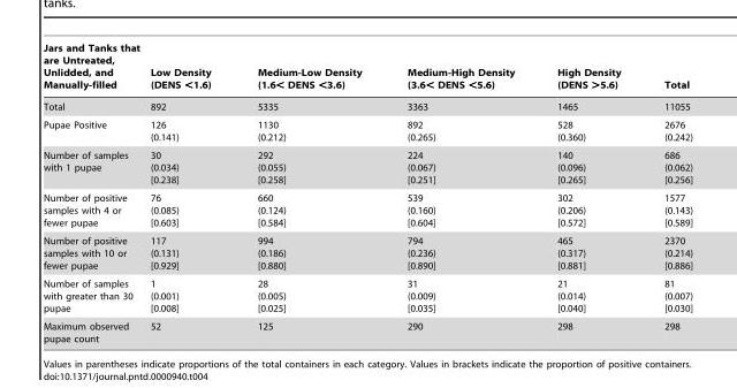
<table><thead><tr><td>Jars and Tanks that are Untreated, Unlidded, and Manually-filled</td><td>Low Density (DENS &lt;1.6)</td><td>Medium-Low Density (1.6&lt; DENS &lt;3.6)</td><td>Medium-High Density (3.6&lt; DENS &lt;5.6)</td><td>High Density (DENS &gt;5.6)</td><td>Total</td></tr></thead><tbody><tr><td>Total</td><td>892</td><td>5335</td><td>3363</td><td>1465</td><td>11055</td></tr><tr><td>Pupae Positive</td><td>126 (0.141)</td><td>1130 (0.212)</td><td>892 (0.265)</td><td>528 (0.360)</td><td>2676 (0.242)</td></tr><tr><td>Number of samples with 1 pupae</td><td>30 (0.034) [0.238]</td><td>292 (0.055) [0.258]</td><td>224 (0.067) [0.251]</td><td>140 (0.096) [0.265]</td><td>686 (0.062) [0.256]</td></tr><tr><td>Number of positive samples with 4 or fewer pupae</td><td>76 (0.085) [0.603]</td><td>660 (0.124) [0.584]</td><td>539 (0.160) [0.604]</td><td>302 (0.206) [0.572]</td><td>1577 (0.143) [0.589]</td></tr><tr><td>Number of positive samples with 10 or fewer pupae</td><td>117 (0.131) [0.929]</td><td>994 (0.186) [0.880]</td><td>794 (0.236) [0.890]</td><td>465 (0.317) [0.881]</td><td>2370 (0.214) [0.886]</td></tr><tr><td>Number of samples with greater than 30 pupae</td><td>1 (0.001) [0.008]</td><td>28 (0.005) [0.025]</td><td>31 (0.009) [0.035]</td><td>21 (0.014) [0.040]</td><td>81 (0.007) [0.030]</td></tr><tr><td>Maximum observed pupae count</td><td>52</td><td>125</td><td>290</td><td>298</td><td>298</td></tr></tbody></table>